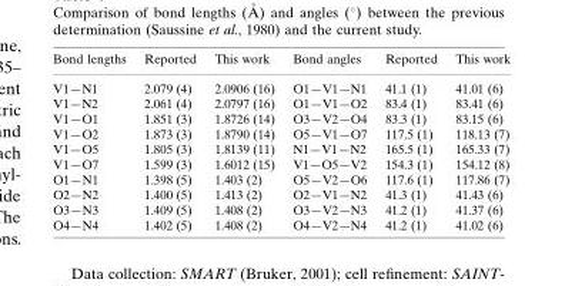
<table><tbody><tr><td>Bond lengths</td><td>Reported</td><td>This work</td><td>Bond angles</td><td>Reported</td><td>This work</td></tr><tr><td>V1—N1</td><td>2.079 (4)</td><td>2.0906 (16)</td><td>O1—V1—N1</td><td>41.1 (1)</td><td>41.01 (6)</td></tr><tr><td>V1—N2</td><td>2.061 (4)</td><td>2.0797 (16)</td><td>O1—V1—O2</td><td>83.4 (1)</td><td>83.41 (6)</td></tr><tr><td>V1—O1</td><td>1.851 (3)</td><td>1.8726 (14)</td><td>O3—V2—O4</td><td>83.3 (1)</td><td>83.15 (6)</td></tr><tr><td>V1—O2</td><td>1.873 (3)</td><td>1.8790 (14)</td><td>O5—V1—O7</td><td>117.5 (1)</td><td>118.13 (7)</td></tr><tr><td>V1—O5</td><td>1.805 (3)</td><td>1.8139 (11)</td><td>N1—V1—N2</td><td>165.5 (1)</td><td>165.33 (7)</td></tr><tr><td>V1—O7</td><td>1.599 (3)</td><td>1.6012 (15)</td><td>V1—O5—V2</td><td>154.3 (1)</td><td>154.12 (8)</td></tr><tr><td>O1—N1</td><td>1.398 (5)</td><td>1.403 (2)</td><td>O5—V2—O6</td><td>117.6 (1)</td><td>117.86 (7)</td></tr><tr><td>O2—N2</td><td>1.400 (5)</td><td>1.413 (2)</td><td>O2—V1—N2</td><td>41.3 (1)</td><td>41.43 (6)</td></tr><tr><td>O3—N3</td><td>1.409 (5)</td><td>1.408 (2)</td><td>O3—V2—N3</td><td>41.2 (1)</td><td>41.37 (6)</td></tr><tr><td>O4—N4</td><td>1.402 (5)</td><td>1.408 (2)</td><td>O4—V2—N4</td><td>41.2 (1)</td><td>41.02 (6)</td></tr></tbody></table>